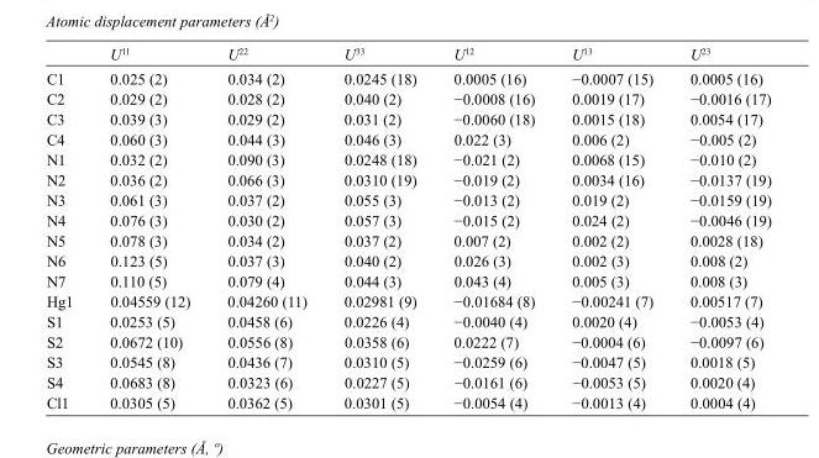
<table><thead><tr><td></td><td>U<sup>11</sup></td><td>U<sup>22</sup></td><td>U<sup>33</sup></td><td>U<sup>12</sup></td><td>U<sup>13</sup></td><td>U<sup>23</sup></td></tr></thead><tbody><tr><td>C1</td><td>0.025 (2)</td><td>0.034 (2)</td><td>0.0245 (18)</td><td>0.0005 (16)</td><td>−0.0007 (15)</td><td>0.0005 (16)</td></tr><tr><td>C2</td><td>0.029 (2)</td><td>0.028 (2)</td><td>0.040 (2)</td><td>−0.0008 (16)</td><td>0.0019 (17)</td><td>−0.0016 (17)</td></tr><tr><td>C3</td><td>0.039 (3)</td><td>0.029 (2)</td><td>0.031 (2)</td><td>−0.0060 (18)</td><td>0.0015 (18)</td><td>0.0054 (17)</td></tr><tr><td>C4</td><td>0.060 (3)</td><td>0.044 (3)</td><td>0.046 (3)</td><td>0.022 (3)</td><td>0.006 (2)</td><td>−0.005 (2)</td></tr><tr><td>N1</td><td>0.032 (2)</td><td>0.090 (3)</td><td>0.0248 (18)</td><td>−0.021 (2)</td><td>0.0068 (15)</td><td>−0.010 (2)</td></tr><tr><td>N2</td><td>0.036 (2)</td><td>0.066 (3)</td><td>0.0310 (19)</td><td>−0.019 (2)</td><td>0.0034 (16)</td><td>−0.0137 (19)</td></tr><tr><td>N3</td><td>0.061 (3)</td><td>0.037 (2)</td><td>0.055 (3)</td><td>−0.013 (2)</td><td>0.019 (2)</td><td>−0.0159 (19)</td></tr><tr><td>N4</td><td>0.076 (3)</td><td>0.030 (2)</td><td>0.057 (3)</td><td>−0.015 (2)</td><td>0.024 (2)</td><td>−0.0046 (19)</td></tr><tr><td>N5</td><td>0.078 (3)</td><td>0.034 (2)</td><td>0.037 (2)</td><td>0.007 (2)</td><td>0.002 (2)</td><td>0.0028 (18)</td></tr><tr><td>N6</td><td>0.123 (5)</td><td>0.037 (3)</td><td>0.040 (2)</td><td>0.026 (3)</td><td>0.002 (3)</td><td>0.008 (2)</td></tr><tr><td>N7</td><td>0.110 (5)</td><td>0.079 (4)</td><td>0.044 (3)</td><td>0.043 (4)</td><td>0.005 (3)</td><td>0.008 (3)</td></tr><tr><td>Hg1</td><td>0.04559 (12)</td><td>0.04260 (11)</td><td>0.02981 (9)</td><td>−0.01684 (8)</td><td>−0.00241 (7)</td><td>0.00517 (7)</td></tr><tr><td>S1</td><td>0.0253 (5)</td><td>0.0458 (6)</td><td>0.0226 (4)</td><td>−0.0040 (4)</td><td>0.0020 (4)</td><td>−0.0053 (4)</td></tr><tr><td>S2</td><td>0.0672 (10)</td><td>0.0556 (8)</td><td>0.0358 (6)</td><td>0.0222 (7)</td><td>−0.0004 (6)</td><td>−0.0097 (6)</td></tr><tr><td>S3</td><td>0.0545 (8)</td><td>0.0436 (7)</td><td>0.0310 (5)</td><td>−0.0259 (6)</td><td>−0.0047 (5)</td><td>0.0018 (5)</td></tr><tr><td>S4</td><td>0.0683 (8)</td><td>0.0323 (6)</td><td>0.0227 (5)</td><td>−0.0161 (6)</td><td>−0.0053 (5)</td><td>0.0020 (4)</td></tr><tr><td>Cl1</td><td>0.0305 (5)</td><td>0.0362 (5)</td><td>0.0301 (5)</td><td>−0.0054 (4)</td><td>−0.0013 (4)</td><td>0.0004 (4)</td></tr></tbody></table>